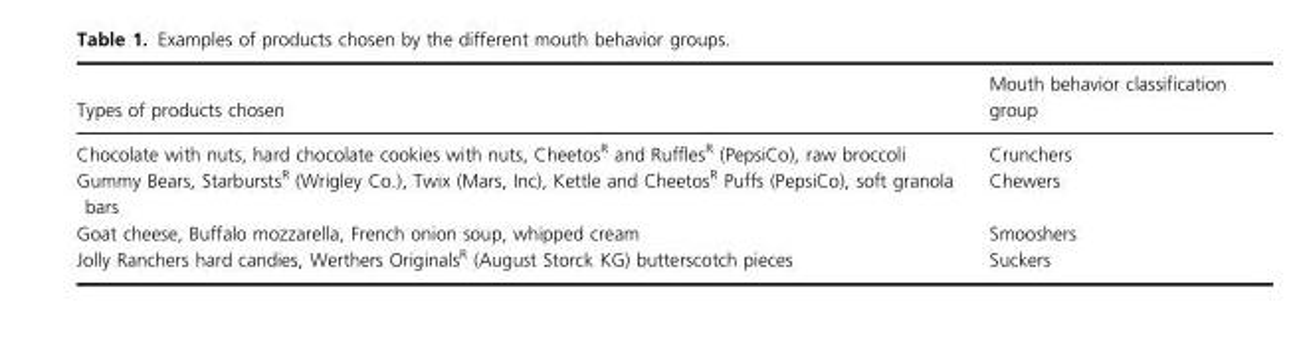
<table><thead><tr><td>Types of products chosen</td><td>Mouth behavior classification group</td></tr></thead><tbody><tr><td>Chocolate with nuts, hard chocolate cookies with nuts, Cheetos<sup>R</sup> and Ruffles<sup>R</sup> (PepsiCo), raw broccoli</td><td>Crunchers</td></tr><tr><td>Gummy Bears, Starbursts<sup>R</sup> (Wrigley Co.), Twix (Mars, Inc), Kettle and Cheetos<sup>R</sup> Puffs (PepsiCo), soft granola bars</td><td>Chewers</td></tr><tr><td>Goat cheese, Buffalo mozzarella, French onion soup, whipped cream</td><td>Smooshers</td></tr><tr><td>Jolly Ranchers hard candies, Werthers Originals<sup>R</sup> (August Storck KG) butterscotch pieces</td><td>Suckers</td></tr></tbody></table>